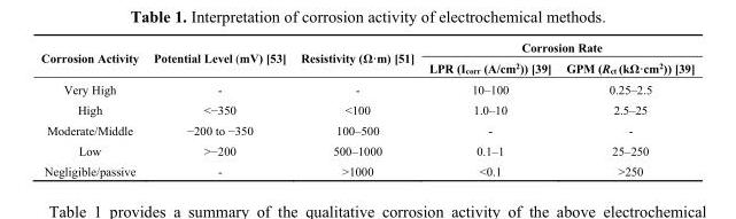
<table><thead><tr><td rowspan="2">Corrosion Activity</td><td rowspan="2">Potential Level (mV) [53]</td><td rowspan="2">Resistivity (Ω·m) [51]</td><td colspan="2">Corrosion Rate</td></tr><tr><td>LPR (I<sub>corr</sub> (A/cm<sup>2</sup>)) [39]</td><td>GPM (R<sub>ct</sub> (kΩ·cm<sup>2</sup>)) [39]</td></tr></thead><tbody><tr><td>Very High</td><td>-</td><td>-</td><td>10–100</td><td>0.25–2.5</td></tr><tr><td>High</td><td>&lt;−350</td><td>&lt;100</td><td>1.0–10</td><td>2.5–25</td></tr><tr><td>Moderate/Middle</td><td>−200 to −350</td><td>100–500</td><td>-</td><td>-</td></tr><tr><td>Low</td><td>&gt;−200</td><td>500–1000</td><td>0.1–1</td><td>25–250</td></tr><tr><td>Negligible/passive</td><td>-</td><td>&gt;1000</td><td>&lt;0.1</td><td>&gt;250</td></tr></tbody></table>